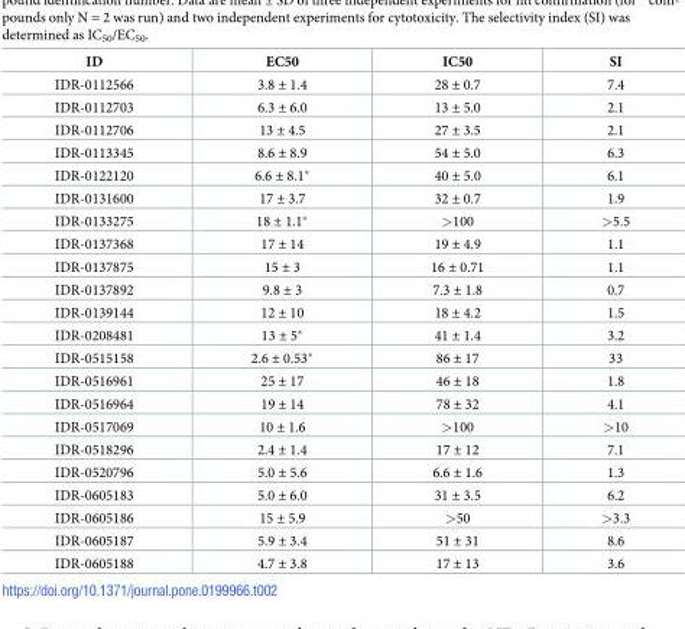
<table><thead><tr><td>ID</td><td>EC50</td><td>IC50</td><td>SI</td></tr></thead><tbody><tr><td>IDR-0112566</td><td>3.8 ± 1.4</td><td>28 ± 0.7</td><td>7.4</td></tr><tr><td>IDR-0112703</td><td>6.3 ± 6.0</td><td>13 ± 5.0</td><td>2.1</td></tr><tr><td>IDR-0112706</td><td>13 ± 4.5</td><td>27 ± 3.5</td><td>2.1</td></tr><tr><td>IDR-0113345</td><td>8.6 ± 8.9</td><td>54 ± 5.0</td><td>6.3</td></tr><tr><td>IDR-0122120</td><td>6.6 ± 8.1*</td><td>40 ± 5.0</td><td>6.1</td></tr><tr><td>IDR-0131600</td><td>17 ± 3.7</td><td>32 ± 0.7</td><td>1.9</td></tr><tr><td>IDR-0133275</td><td>18 ± 1.1*</td><td>&gt;100</td><td>&gt;5.5</td></tr><tr><td>IDR-0137368</td><td>17 ± 14</td><td>19 ± 4.9</td><td>1.1</td></tr><tr><td>IDR-0137875</td><td>15 ± 3</td><td>16 ± 0.71</td><td>1.1</td></tr><tr><td>IDR-0137892</td><td>9.8 ± 3</td><td>7.3 ± 1.8</td><td>0.7</td></tr><tr><td>IDR-0139144</td><td>12 ± 10</td><td>18 ± 4.2</td><td>1.5</td></tr><tr><td>IDR-0208481</td><td>13 ± 5*</td><td>41 ± 1.4</td><td>3.2</td></tr><tr><td>IDR-0515158</td><td>2.6 ± 0.53*</td><td>86 ± 17</td><td>33</td></tr><tr><td>IDR-0516961</td><td>25 ± 17</td><td>46 ± 18</td><td>1.8</td></tr><tr><td>IDR-0516964</td><td>19 ± 14</td><td>78 ± 32</td><td>4.1</td></tr><tr><td>IDR-0517069</td><td>10 ± 1.6</td><td>&gt;100</td><td>&gt;10</td></tr><tr><td>IDR-0518296</td><td>2.4 ± 1.4</td><td>17 ± 12</td><td>7.1</td></tr><tr><td>IDR-0520796</td><td>5.0 ± 5.6</td><td>6.6 ± 1.6</td><td>1.3</td></tr><tr><td>IDR-0605183</td><td>5.0 ± 6.0</td><td>31 ± 3.5</td><td>6.2</td></tr><tr><td>IDR-0605186</td><td>15 ± 5.9</td><td>&gt;50</td><td>&gt;3.3</td></tr><tr><td>IDR-0605187</td><td>5.9 ± 3.4</td><td>51 ± 31</td><td>8.6</td></tr><tr><td>IDR-0605188</td><td>4.7 ± 3.8</td><td>17 ± 13</td><td>3.6</td></tr></tbody></table>